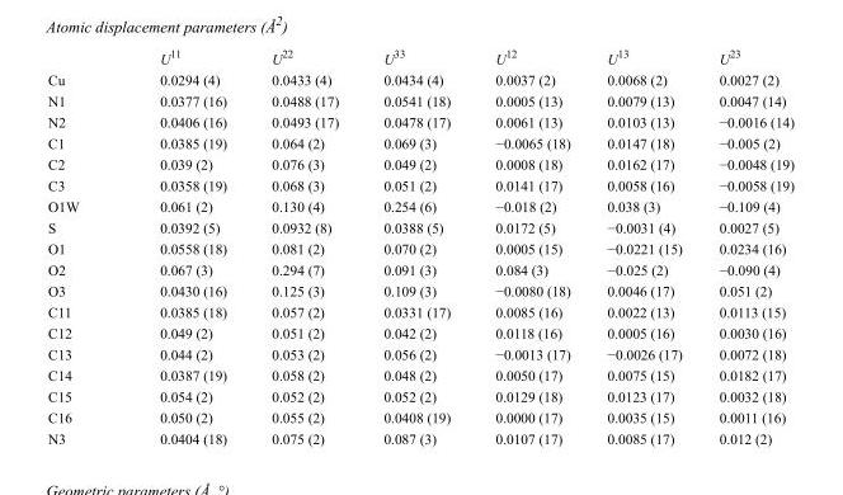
<table><thead><tr><td></td><td>U<sup>11</sup></td><td>U<sup>22</sup></td><td>U<sup>33</sup></td><td>U<sup>12</sup></td><td>U<sup>13</sup></td><td>U<sup>23</sup></td></tr></thead><tbody><tr><td>Cu</td><td>0.0294 (4)</td><td>0.0433 (4)</td><td>0.0434 (4)</td><td>0.0037 (2)</td><td>0.0068 (2)</td><td>0.0027 (2)</td></tr><tr><td>N1</td><td>0.0377 (16)</td><td>0.0488 (17)</td><td>0.0541 (18)</td><td>0.0005 (13)</td><td>0.0079 (13)</td><td>0.0047 (14)</td></tr><tr><td>N2</td><td>0.0406 (16)</td><td>0.0493 (17)</td><td>0.0478 (17)</td><td>0.0061 (13)</td><td>0.0103 (13)</td><td>−0.0016 (14)</td></tr><tr><td>C1</td><td>0.0385 (19)</td><td>0.064 (2)</td><td>0.069 (3)</td><td>−0.0065 (18)</td><td>0.0147 (18)</td><td>−0.005 (2)</td></tr><tr><td>C2</td><td>0.039 (2)</td><td>0.076 (3)</td><td>0.049 (2)</td><td>0.0008 (18)</td><td>0.0162 (17)</td><td>−0.0048 (19)</td></tr><tr><td>C3</td><td>0.0358 (19)</td><td>0.068 (3)</td><td>0.051 (2)</td><td>0.0141 (17)</td><td>0.0058 (16)</td><td>−0.0058 (19)</td></tr><tr><td>O1W</td><td>0.061 (2)</td><td>0.130 (4)</td><td>0.254 (6)</td><td>−0.018 (2)</td><td>0.038 (3)</td><td>−0.109 (4)</td></tr><tr><td>S</td><td>0.0392 (5)</td><td>0.0932 (8)</td><td>0.0388 (5)</td><td>0.0172 (5)</td><td>−0.0031 (4)</td><td>0.0027 (5)</td></tr><tr><td>O1</td><td>0.0558 (18)</td><td>0.081 (2)</td><td>0.070 (2)</td><td>0.0005 (15)</td><td>−0.0221 (15)</td><td>0.0234 (16)</td></tr><tr><td>O2</td><td>0.067 (3)</td><td>0.294 (7)</td><td>0.091 (3)</td><td>0.084 (3)</td><td>−0.025 (2)</td><td>−0.090 (4)</td></tr><tr><td>O3</td><td>0.0430 (16)</td><td>0.125 (3)</td><td>0.109 (3)</td><td>−0.0080 (18)</td><td>0.0046 (17)</td><td>0.051 (2)</td></tr><tr><td>C11</td><td>0.0385 (18)</td><td>0.057 (2)</td><td>0.0331 (17)</td><td>0.0085 (16)</td><td>0.0022 (13)</td><td>0.0113 (15)</td></tr><tr><td>C12</td><td>0.049 (2)</td><td>0.051 (2)</td><td>0.042 (2)</td><td>0.0118 (16)</td><td>0.0005 (16)</td><td>0.0030 (16)</td></tr><tr><td>C13</td><td>0.044 (2)</td><td>0.053 (2)</td><td>0.056 (2)</td><td>−0.0013 (17)</td><td>−0.0026 (17)</td><td>0.0072 (18)</td></tr><tr><td>C14</td><td>0.0387 (19)</td><td>0.058 (2)</td><td>0.048 (2)</td><td>0.0050 (17)</td><td>0.0075 (15)</td><td>0.0182 (17)</td></tr><tr><td>C15</td><td>0.054 (2)</td><td>0.052 (2)</td><td>0.052 (2)</td><td>0.0129 (18)</td><td>0.0123 (17)</td><td>0.0032 (18)</td></tr><tr><td>C16</td><td>0.050 (2)</td><td>0.055 (2)</td><td>0.0408 (19)</td><td>0.0000 (17)</td><td>0.0035 (15)</td><td>0.0011 (16)</td></tr><tr><td>N3</td><td>0.0404 (18)</td><td>0.075 (2)</td><td>0.087 (3)</td><td>0.0107 (17)</td><td>0.0085 (17)</td><td>0.012 (2)</td></tr></tbody></table>